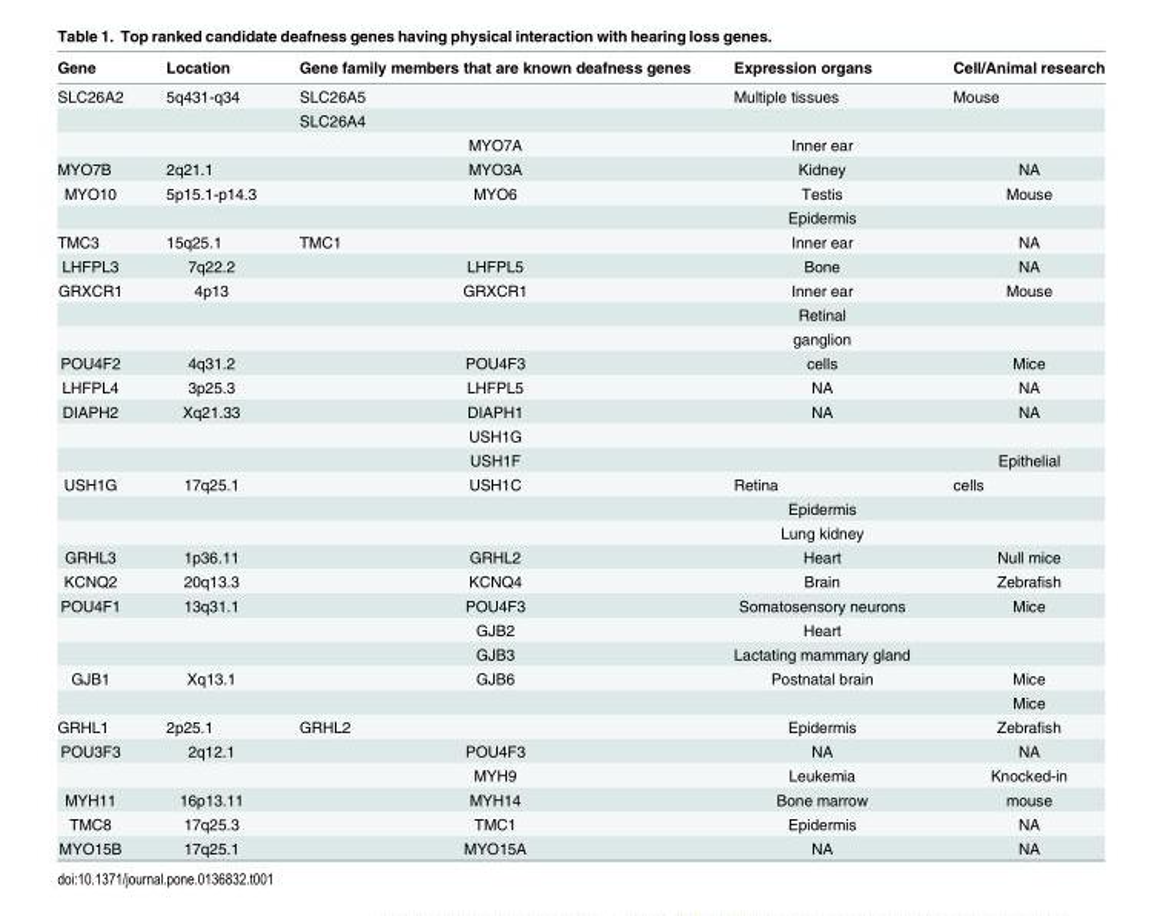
<table><thead><tr><td>Gene</td><td>Location</td><td>Gene family members that are known deafness genes</td><td>Expression organs</td><td>Cell/Animal research</td></tr></thead><tbody><tr><td rowspan="3">SLC26A2</td><td>5q431-q34</td><td>SLC26A5</td><td>Multiple tissues</td><td>Mouse</td></tr><tr><td></td><td>SLC26A4</td><td></td><td></td></tr><tr><td></td><td>MYO7A</td><td>Inner ear</td><td></td></tr><tr><td>MYO7B</td><td>2q21.1</td><td>MYO3A</td><td>Kidney</td><td>NA</td></tr><tr><td rowspan="2">MYO10</td><td>5p15.1-p14.3</td><td>MYO6</td><td>Testis</td><td>Mouse</td></tr><tr><td></td><td></td><td>Epidermis</td><td></td></tr><tr><td>TMC3</td><td>15q25.1</td><td>TMC1</td><td>Inner ear</td><td>NA</td></tr><tr><td>LHFPL3</td><td>7q22.2</td><td>LHFPL5</td><td>Bone</td><td>NA</td></tr><tr><td rowspan="3">GRXCR1</td><td>4p13</td><td>GRXCR1</td><td>Inner ear</td><td>Mouse</td></tr><tr><td></td><td></td><td>Retinal</td><td></td></tr><tr><td></td><td></td><td>ganglion</td><td></td></tr><tr><td>POU4F2</td><td>4q31.2</td><td>POU4F3</td><td>cells</td><td>Mice</td></tr><tr><td>LHFPL4</td><td>3p25.3</td><td>LHFPL5</td><td>NA</td><td>NA</td></tr><tr><td rowspan="3">DIAPH2</td><td>Xq21.33</td><td>DIAPH1</td><td>NA</td><td>NA</td></tr><tr><td></td><td>USH1G</td><td></td><td></td></tr><tr><td></td><td>USH1F</td><td></td><td>Epithelial</td></tr><tr><td rowspan="3">USH1G</td><td>17q25.1</td><td>USH1C</td><td>Retina</td><td>cells</td></tr><tr><td></td><td></td><td>Epidermis</td><td></td></tr><tr><td></td><td></td><td>Lung kidney</td><td></td></tr><tr><td>GRHL3</td><td>1p36.11</td><td>GRHL2</td><td>Heart</td><td>Null mice</td></tr><tr><td>KCNQ2</td><td>20q13.3</td><td>KCNQ4</td><td>Brain</td><td>Zebrafish</td></tr><tr><td rowspan="3">POU4F1</td><td>13q31.1</td><td>POU4F3</td><td>Somatosensory neurons</td><td>Mice</td></tr><tr><td></td><td>GJB2</td><td>Heart</td><td></td></tr><tr><td></td><td>GJB3</td><td>Lactating mammary gland</td><td></td></tr><tr><td rowspan="2">GJB1</td><td>Xq13.1</td><td>GJB6</td><td>Postnatal brain</td><td>Mice</td></tr><tr><td></td><td></td><td></td><td>Mice</td></tr><tr><td>GRHL1</td><td>2p25.1</td><td>GRHL2</td><td>Epidermis</td><td>Zebrafish</td></tr><tr><td rowspan="2">POU3F3</td><td>2q12.1</td><td>POU4F3</td><td>NA</td><td>NA</td></tr><tr><td></td><td>MYH9</td><td>Leukemia</td><td>Knocked-in</td></tr><tr><td>MYH11</td><td>16p13.11</td><td>MYH14</td><td>Bone marrow</td><td>mouse</td></tr><tr><td>TMC8</td><td>17q25.3</td><td>TMC1</td><td>Epidermis</td><td>NA</td></tr><tr><td>MYO15B</td><td>17q25.1</td><td>MYO15A</td><td>NA</td><td>NA</td></tr></tbody></table>